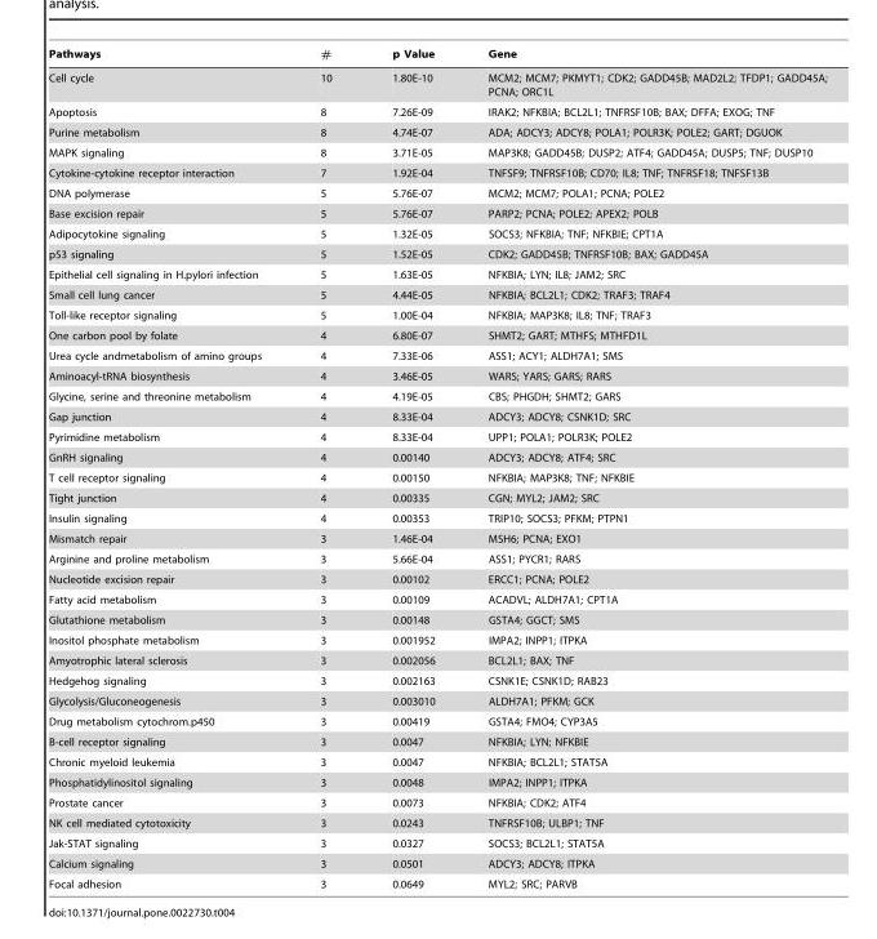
<table><thead><tr><td>Pathways</td><td>#</td><td>p Value</td><td>Gene</td></tr></thead><tbody><tr><td>Cell cycle</td><td>10</td><td>1.80E-10</td><td>MCM2; MCM7; PKMYT1; CDK2; GADD45B; MAD2L2; TFDP1; GADD45A; PCNA; ORC1L</td></tr><tr><td>Apoptosis</td><td>8</td><td>7.26E-09</td><td>IRAK2; NFKBIA; BCL2L1; TNFRSF10B; BAX; DFFA; EXOG; TNF</td></tr><tr><td>Purine metabolism</td><td>8</td><td>4.74E-07</td><td>ADA; ADCY3; ADCY8; POLA1; POLR3K; POLE2; GART; DGUOK</td></tr><tr><td>MAPK signaling</td><td>8</td><td>3.71E-05</td><td>MAP3K8; GADD45B; DUSP2; ATF4; GADD45A; DUSP5; TNF; DUSP10</td></tr><tr><td>Cytokine-cytokine receptor interaction</td><td>7</td><td>1.92E-04</td><td>TNFSF9; TNFRSF10B; CD70; IL8; TNF; TNFRSF18; TNFSF13B</td></tr><tr><td>DNA polymerase</td><td>5</td><td>5.76E-07</td><td>MCM2; MCM7; POLA1; PCNA; POLE2</td></tr><tr><td>Base excision repair</td><td>5</td><td>5.76E-07</td><td>PARP2; PCNA; POLE2; APEX2; POLB</td></tr><tr><td>Adipocytokine signaling</td><td>5</td><td>1.32E-05</td><td>SOCS3; NFKBIA; TNF; NFKBIE; CPT1A</td></tr><tr><td>p53 signaling</td><td>5</td><td>1.52E-05</td><td>CDK2; GADD45B; TNFRSF10B; BAX; GADD45A</td></tr><tr><td>Epithelial cell signaling in H.pylori infection</td><td>5</td><td>1.63E-05</td><td>NFKBIA; LYN; IL8; JAM2; SRC</td></tr><tr><td>Small cell lung cancer</td><td>5</td><td>4.44E-05</td><td>NFKBIA; BCL2L1; CDK2; TRAF3; TRAF4</td></tr><tr><td>Toll-like receptor signaling</td><td>5</td><td>1.00E-04</td><td>NFKBIA; MAP3K8; IL8; TNF; TRAF3</td></tr><tr><td>One carbon pool by folate</td><td>4</td><td>6.80E-07</td><td>SHMT2; GART; MTHFS; MTHFD1L</td></tr><tr><td>Urea cycle andmetabolism of amino groups</td><td>4</td><td>7.33E-06</td><td>ASS1; ACY1; ALDH7A1; SMS</td></tr><tr><td>Aminoacyl-tRNA biosynthesis</td><td>4</td><td>3.46E-05</td><td>WARS; YARS; GARS; RARS</td></tr><tr><td>Glycine, serine and threonine metabolism</td><td>4</td><td>4.19E-05</td><td>CBS; PHGDH; SHMT2; GARS</td></tr><tr><td>Gap junction</td><td>4</td><td>8.33E-04</td><td>ADCY3; ADCY8; CSNK1D; SRC</td></tr><tr><td>Pyrimidine metabolism</td><td>4</td><td>8.33E-04</td><td>UPP1; POLA1; POLR3K; POLE2</td></tr><tr><td>GnRH signaling</td><td>4</td><td>0.00140</td><td>ADCY3; ADCY8; ATF4; SRC</td></tr><tr><td>T cell receptor signaling</td><td>4</td><td>0.00150</td><td>NFKBIA; MAP3K8; TNF; NFKBIE</td></tr><tr><td>Tight junction</td><td>4</td><td>0.00335</td><td>CGN; MYL2; JAM2; SRC</td></tr><tr><td>Insulin signaling</td><td>4</td><td>0.00353</td><td>TRIP10; SOCS3; PFKM; PTPN1</td></tr><tr><td>Mismatch repair</td><td>3</td><td>1.46E-04</td><td>MSH6; PCNA; EXO1</td></tr><tr><td>Arginine and proline metabolism</td><td>3</td><td>5.66E-04</td><td>ASS1; PYCR1; RARS</td></tr><tr><td>Nucleotide excision repair</td><td>3</td><td>0.00102</td><td>ERCC1; PCNA; POLE2</td></tr><tr><td>Fatty acid metabolism</td><td>3</td><td>0.00109</td><td>ACADVL; ALDH7A1; CPT1A</td></tr><tr><td>Glutathione metabolism</td><td>3</td><td>0.00148</td><td>GSTA4; GGCT; SMS</td></tr><tr><td>Inositol phosphate metabolism</td><td>3</td><td>0.001952</td><td>IMPA2; INPP1; ITPKA</td></tr><tr><td>Amyotrophic lateral sclerosis</td><td>3</td><td>0.002056</td><td>BCL2L1; BAX; TNF</td></tr><tr><td>Hedgehog signaling</td><td>3</td><td>0.002163</td><td>CSNK1E; CSNK1D; RAB23</td></tr><tr><td>Glycolysis/Gluconeogenesis</td><td>3</td><td>0.003010</td><td>ALDH7A1; PFKM; GCK</td></tr><tr><td>Drug metabolism cytochrom.p450</td><td>3</td><td>0.00419</td><td>GSTA4; FMO4; CYP3A5</td></tr><tr><td>B-cell receptor signaling</td><td>3</td><td>0.0047</td><td>NFKBIA; LYN; NFKBIE</td></tr><tr><td>Chronic myeloid leukemia</td><td>3</td><td>0.0047</td><td>NFKBIA; BCL2L1; STAT5A</td></tr><tr><td>Phosphatidylinositol signaling</td><td>3</td><td>0.0048</td><td>IMPA2; INPP1; ITPKA</td></tr><tr><td>Prostate cancer</td><td>3</td><td>0.0073</td><td>NFKBIA; CDK2; ATF4</td></tr><tr><td>NK cell mediated cytotoxicity</td><td>3</td><td>0.0243</td><td>TNFRSF10B; ULBP1; TNF</td></tr><tr><td>Jak-STAT signaling</td><td>3</td><td>0.0327</td><td>SOCS3; BCL2L1; STAT5A</td></tr><tr><td>Calcium signaling</td><td>3</td><td>0.0501</td><td>ADCY3; ADCY8; ITPKA</td></tr><tr><td>Focal adhesion</td><td>3</td><td>0.0649</td><td>MYL2; SRC; PARVB</td></tr></tbody></table>